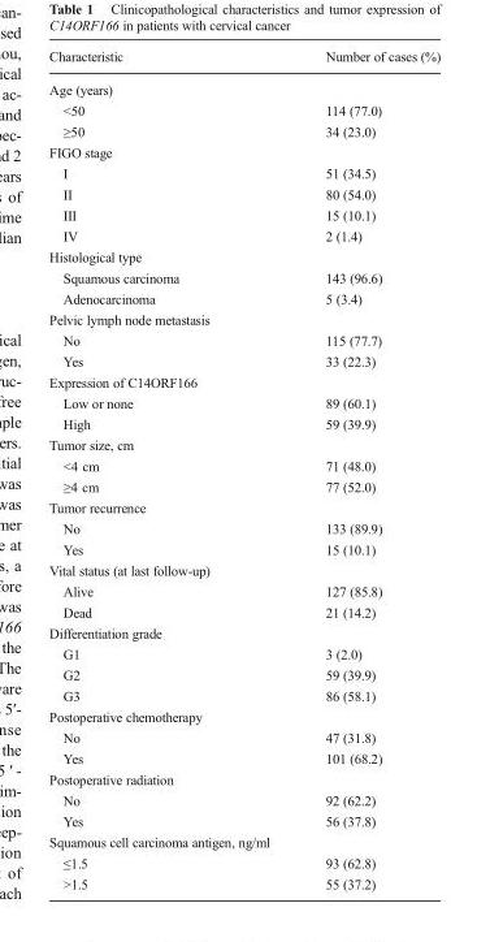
<table><thead><tr><td>Characteristic</td><td>Number of cases (%)</td></tr></thead><tbody><tr><td colspan="2">Age (years)</td></tr><tr><td>&lt;50</td><td>114 (77.0)</td></tr><tr><td>≥50</td><td>34 (23.0)</td></tr><tr><td colspan="2">FIGO stage</td></tr><tr><td>I</td><td>51 (34.5)</td></tr><tr><td>II</td><td>80 (54.0)</td></tr><tr><td>III</td><td>15 (10.1)</td></tr><tr><td>IV</td><td>2 (1.4)</td></tr><tr><td colspan="2">Histological type</td></tr><tr><td>Squamous carcinoma</td><td>143 (96.6)</td></tr><tr><td>Adenocarcinoma</td><td>5 (3.4)</td></tr><tr><td colspan="2">Pelvic lymph node metastasis</td></tr><tr><td>No</td><td>115 (77.7)</td></tr><tr><td>Yes</td><td>33 (22.3)</td></tr><tr><td colspan="2">Expression of C14ORF166</td></tr><tr><td>Low or none</td><td>89 (60.1)</td></tr><tr><td>High</td><td>59 (39.9)</td></tr><tr><td colspan="2">Tumor size, cm</td></tr><tr><td>&lt;4 cm</td><td>71 (48.0)</td></tr><tr><td>≥4 cm</td><td>77 (52.0)</td></tr><tr><td colspan="2">Tumor recurrence</td></tr><tr><td>No</td><td>133 (89.9)</td></tr><tr><td>Yes</td><td>15 (10.1)</td></tr><tr><td colspan="2">Vital status (at last follow-up)</td></tr><tr><td>Alive</td><td>127 (85.8)</td></tr><tr><td>Dead</td><td>21 (14.2)</td></tr><tr><td colspan="2">Differentiation grade</td></tr><tr><td>G1</td><td>3 (2.0)</td></tr><tr><td>G2</td><td>59 (39.9)</td></tr><tr><td>G3</td><td>86 (58.1)</td></tr><tr><td colspan="2">Postoperative chemotherapy</td></tr><tr><td>No</td><td>47 (31.8)</td></tr><tr><td>Yes</td><td>101 (68.2)</td></tr><tr><td colspan="2">Postoperative radiation</td></tr><tr><td>No</td><td>92 (62.2)</td></tr><tr><td>Yes</td><td>56 (37.8)</td></tr><tr><td colspan="2">Squamous cell carcinoma antigen, ng/ml</td></tr><tr><td>≤1.5</td><td>93 (62.8)</td></tr><tr><td>&gt;1.5</td><td>55 (37.2)</td></tr></tbody></table>